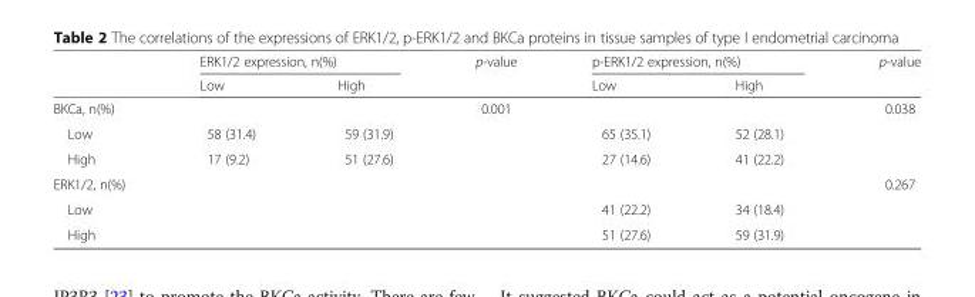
<table><thead><tr><td rowspan="2"></td><td colspan="2">ERK1/2 expression, n(%)</td><td rowspan="2">p-value</td><td colspan="2">p-ERK1/2 expression, n(%)</td><td rowspan="2">p-value</td></tr><tr><td>Low</td><td>High</td><td>Low</td><td>High</td></tr></thead><tbody><tr><td>BKCa, n(%)</td><td></td><td></td><td>0.001</td><td></td><td></td><td>0.038</td></tr><tr><td>Low</td><td>58 (31.4)</td><td>59 (31.9)</td><td></td><td>65 (35.1)</td><td>52 (28.1)</td><td></td></tr><tr><td>High</td><td>17 (9.2)</td><td>51 (27.6)</td><td></td><td>27 (14.6)</td><td>41 (22.2)</td><td></td></tr><tr><td>ERK1/2, n(%)</td><td></td><td></td><td></td><td></td><td></td><td>0.267</td></tr><tr><td>Low</td><td></td><td></td><td></td><td>41 (22.2)</td><td>34 (18.4)</td><td></td></tr><tr><td>High</td><td></td><td></td><td></td><td>51 (27.6)</td><td>59 (31.9)</td><td></td></tr></tbody></table>